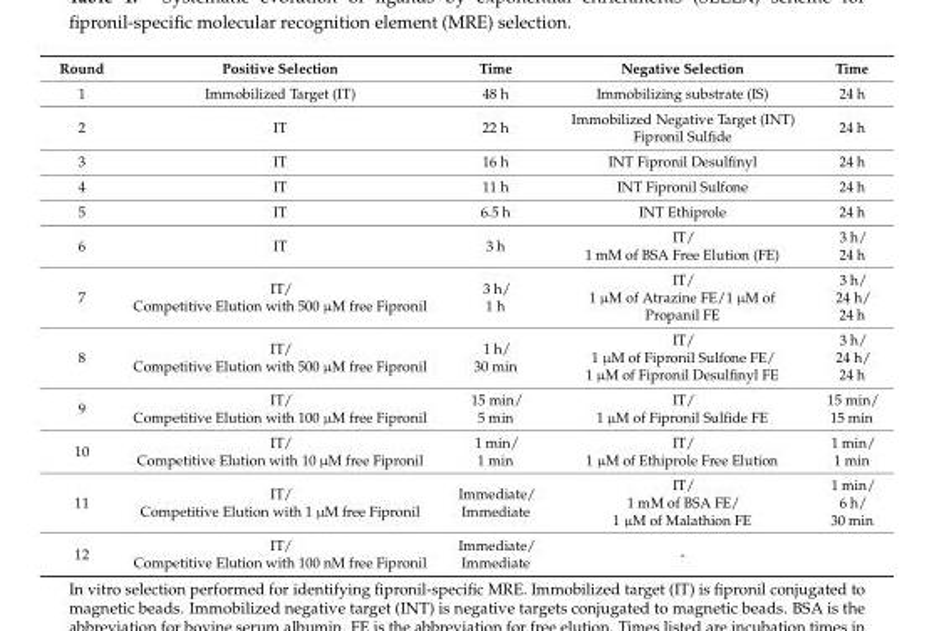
<table><thead><tr><td>Round</td><td>Positive Selection</td><td>Time</td><td>Negative Selection</td><td>Time</td></tr></thead><tbody><tr><td>1</td><td>Immobilized Target (IT)</td><td>48 h</td><td>Immobilizing substrate (IS)</td><td>24 h</td></tr><tr><td>2</td><td>IT</td><td>22 h</td><td>Immobilized Negative Target (INT) Fipronil Sulfide</td><td>24 h</td></tr><tr><td>3</td><td>IT</td><td>16 h</td><td>INT Fipronil Desulfinyl</td><td>24 h</td></tr><tr><td>4</td><td>IT</td><td>11 h</td><td>INT Fipronil Sulfone</td><td>24 h</td></tr><tr><td>5</td><td>IT</td><td>6.5 h</td><td>INT Ethiprole</td><td>24 h</td></tr><tr><td>6</td><td>IT</td><td>3 h</td><td>IT/ 1 mM of BSA Free Elution (FE)</td><td>3 h/ 24 h</td></tr><tr><td>7</td><td>IT/ Competitive Elution with 500 µM free Fipronil</td><td>3 h/ 1 h</td><td>IT/ 1 µM of Atrazine FE/1 µM of Propanil FE</td><td>3 h/ 24 h/ 24 h</td></tr><tr><td>8</td><td>IT/ Competitive Elution with 500 µM free Fipronil</td><td>1 h/ 30 min</td><td>IT/ 1 µM of Fipronil Sulfone FE/ 1 µM of Fipronil Desulfinyl FE</td><td>3 h/ 24 h/ 24 h</td></tr><tr><td>9</td><td>IT/ Competitive Elution with 100 µM free Fipronil</td><td>15 min/ 5 min</td><td>IT/ 1 µM of Fipronil Sulfide FE</td><td>15 min/ 15 min</td></tr><tr><td>10</td><td>IT/ Competitive Elution with 10 µM free Fipronil</td><td>1 min/ 1 min</td><td>IT/ 1 µM of Ethiprole Free Elution</td><td>1 min/ 1 min</td></tr><tr><td>11</td><td>IT/ Competitive Elution with 1 µM free Fipronil</td><td>Immediate/ Immediate</td><td>IT/ 1 mM of BSA FE/ 1 µM of Malathion FE</td><td>1 min/ 6 h/ 30 min</td></tr><tr><td>12</td><td>IT/ Competitive Elution with 100 nM free Fipronil</td><td>Immediate/ Immediate</td><td>-</td><td></td></tr></tbody></table>